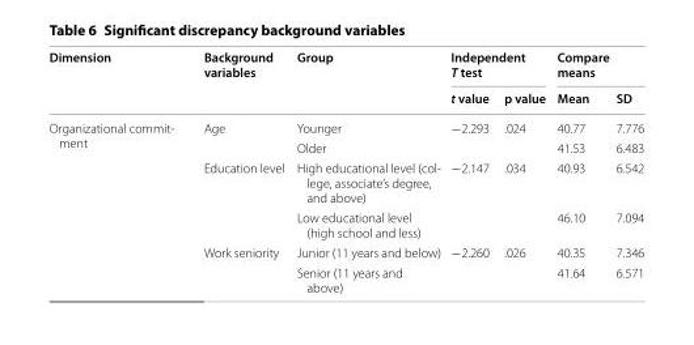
<table><thead><tr><td rowspan="2">Dimension</td><td rowspan="2">Background variables</td><td rowspan="2">Group</td><td colspan="2">Independent T test</td><td colspan="2">Compare means</td></tr><tr><td>t value</td><td>p value</td><td>Mean</td><td>SD</td></tr></thead><tbody><tr><td rowspan="6">Organizational commit‑ ment</td><td rowspan="2">Age</td><td>Younger</td><td rowspan="2">−2.293</td><td rowspan="2">.024</td><td>40.77</td><td>7.776</td></tr><tr><td>Older</td><td>41.53</td><td>6.483</td></tr><tr><td rowspan="2">Education level</td><td>High educational level (col‑ lege, associate’s degree, and above)</td><td rowspan="2">−2.147</td><td rowspan="2">.034</td><td>40.93</td><td>6.542</td></tr><tr><td>Low educational level (high school and less)</td><td>46.10</td><td>7.094</td></tr><tr><td rowspan="2">Work seniority</td><td>Junior (11 years and below)</td><td rowspan="2">−2.260</td><td rowspan="2">.026</td><td>40.35</td><td>7.346</td></tr><tr><td>Senior (11 years and above)</td><td>41.64</td><td>6.571</td></tr></tbody></table>